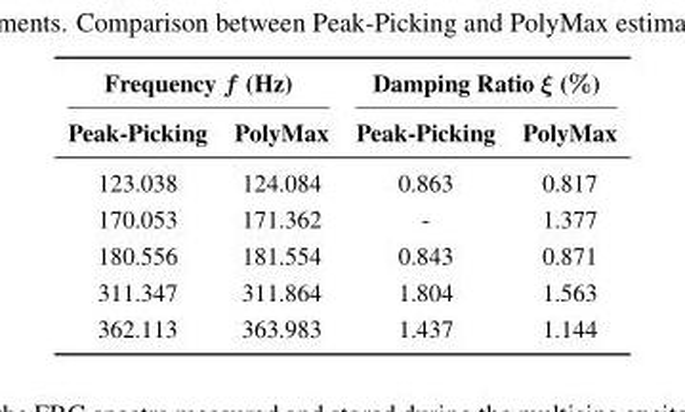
<table><thead><tr><td colspan="2">Frequency f (Hz)</td><td colspan="2">Damping Ratio ξ (%)</td></tr><tr><td>Peak-Picking</td><td>PolyMax</td><td>Peak-Picking</td><td>PolyMax</td></tr></thead><tbody><tr><td>123.038</td><td>124.084</td><td>0.863</td><td>0.817</td></tr><tr><td>170.053</td><td>171.362</td><td>-</td><td>1.377</td></tr><tr><td>180.556</td><td>181.554</td><td>0.843</td><td>0.871</td></tr><tr><td>311.347</td><td>311.864</td><td>1.804</td><td>1.563</td></tr><tr><td>362.113</td><td>363.983</td><td>1.437</td><td>1.144</td></tr></tbody></table>